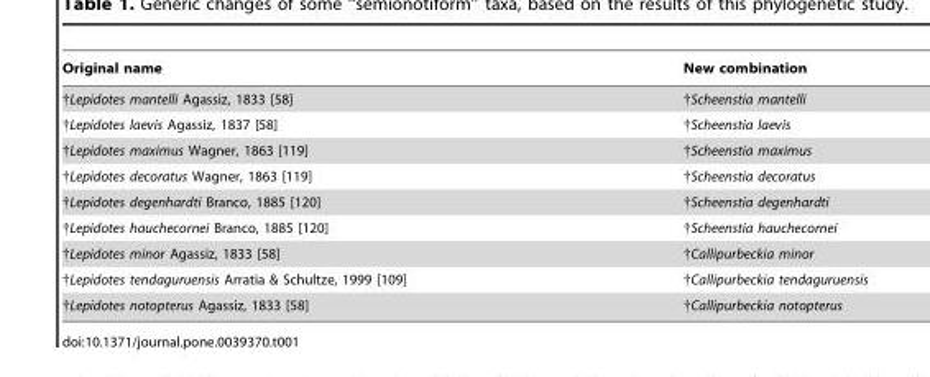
<table><thead><tr><td>Original name</td><td>New combination</td></tr></thead><tbody><tr><td>†Lepidotes mantelli Agassiz, 1833 [58]</td><td>†Scheenstia mantelli</td></tr><tr><td>†Lepidotes laevis Agassiz, 1837 [58]</td><td>†Scheenstia laevis</td></tr><tr><td>†Lepidotes maximus Wagner, 1863 [119]</td><td>†Scheenstia maximus</td></tr><tr><td>†Lepidotes decoratus Wagner, 1863 [119]</td><td>†Scheenstia decoratus</td></tr><tr><td>†Lepidotes degenhardti Branco, 1885 [120]</td><td>†Scheenstia degenhardti</td></tr><tr><td>†Lepidotes hauchecornei Branco, 1885 [120]</td><td>†Scheenstia hauchecornei</td></tr><tr><td>†Lepidotes minor Agassiz, 1833 [58]</td><td>†Callipurbeckia minor</td></tr><tr><td>†Lepidotes tendaguruensis Arratia &amp; Schultze, 1999 [109]</td><td>†Callipurbeckia tendaguruensis</td></tr><tr><td>†Lepidotes notopterus Agassiz, 1833 [58]</td><td>†Callipurbeckia notopterus</td></tr></tbody></table>